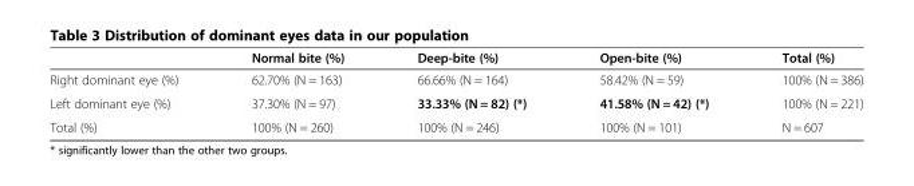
<table><thead><tr><td></td><td>Normal bite (%)</td><td>Deep-bite (%)</td><td>Open-bite (%)</td><td>Total (%)</td></tr></thead><tbody><tr><td>Right dominant eye (%)</td><td>62.70% (N = 163)</td><td>66.66% (N = 164)</td><td>58.42% (N = 59)</td><td>100% (N = 386)</td></tr><tr><td>Left dominant eye (%)</td><td>37.30% (N = 97)</td><td>33.33% (N = 82) (*)</td><td>41.58% (N = 42) (*)</td><td>100% (N = 221)</td></tr><tr><td>Total (%)</td><td>100% (N = 260)</td><td>100% (N = 246)</td><td>100% (N = 101)</td><td>N = 607</td></tr></tbody></table>